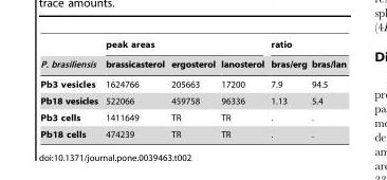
<table><thead><tr><td rowspan="2">P. brasiliensis</td><td colspan="3">peak areas</td><td colspan="2">ratio</td></tr><tr><td>brassicasterol</td><td>ergosterol</td><td>lanosterol</td><td>bras/erg</td><td>bras/lan</td></tr></thead><tbody><tr><td>Pb3 vesicles</td><td>1624766</td><td>205663</td><td>17200</td><td>7.9</td><td>94.5</td></tr><tr><td>Pb18 vesicles</td><td>522066</td><td>459758</td><td>96336</td><td>1.13</td><td>5.4</td></tr><tr><td>Pb3 cells</td><td>1411649</td><td>TR</td><td>TR</td><td>.</td><td>.</td></tr><tr><td>Pb18 cells</td><td>474239</td><td>TR</td><td>TR</td><td>.</td><td>.</td></tr></tbody></table>